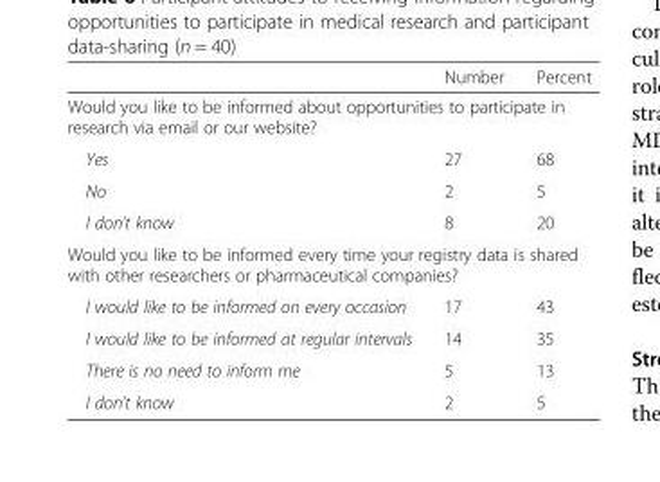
<table><thead><tr><td></td><td>Number</td><td>Percent</td></tr></thead><tbody><tr><td colspan="3">Would you like to be informed about opportunities to participate in research via email or our website?</td></tr><tr><td>Yes</td><td>27</td><td>68</td></tr><tr><td>No</td><td>2</td><td>5</td></tr><tr><td>I don’t know</td><td>8</td><td>20</td></tr><tr><td colspan="3">Would you like to be informed every time your registry data is shared with other researchers or pharmaceutical companies?</td></tr><tr><td>I would like to be informed on every occasion</td><td>17</td><td>43</td></tr><tr><td>I would like to be informed at regular intervals</td><td>14</td><td>35</td></tr><tr><td>There is no need to inform me</td><td>5</td><td>13</td></tr><tr><td>I don’t know</td><td>2</td><td>5</td></tr></tbody></table>